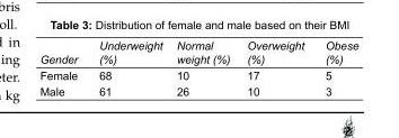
<table><tbody><tr><td>Gender</td><td>Underweight (%)</td><td>Normal weight (%)</td><td>Overweight (%)</td><td>Obese (%)</td></tr><tr><td>Female</td><td>68</td><td>10</td><td>17</td><td>5</td></tr><tr><td>Male</td><td>61</td><td>26</td><td>10</td><td>3</td></tr></tbody></table>